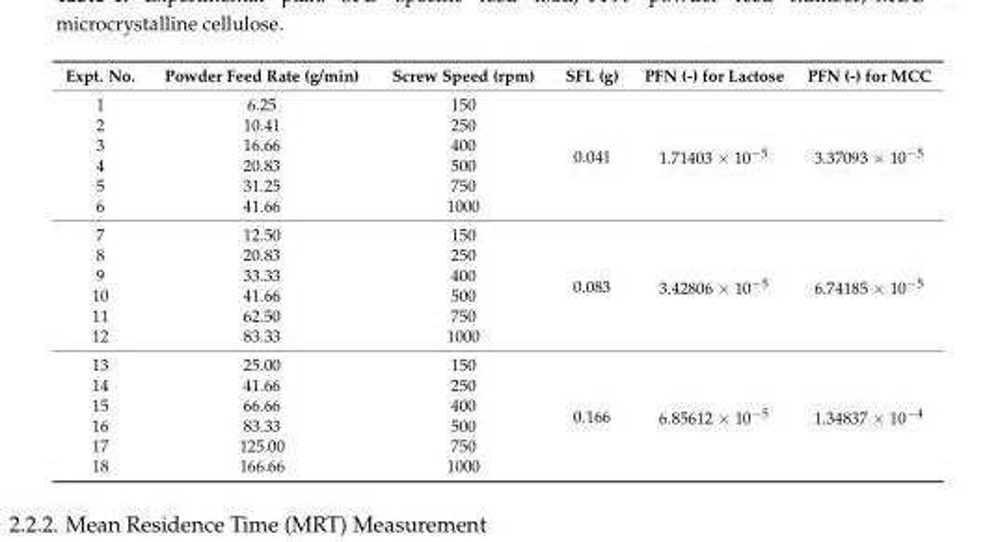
<table><thead><tr><td>Expt. No.</td><td>Powder Feed Rate (g/min)</td><td>Screw Speed (rpm)</td><td>SFL (g)</td><td>PFN (-) for Lactose</td><td>PFN (-) for MCC</td></tr></thead><tbody><tr><td>1</td><td>6.25</td><td>150</td><td rowspan="6">0.041</td><td rowspan="6">1.71403 × 10<sup>−5</sup></td><td rowspan="6">3.37093 × 10<sup>−5</sup></td></tr><tr><td>2</td><td>10.41</td><td>250</td></tr><tr><td>3</td><td>16.66</td><td>400</td></tr><tr><td>4</td><td>20.83</td><td>500</td></tr><tr><td>5</td><td>31.25</td><td>750</td></tr><tr><td>6</td><td>41.66</td><td>1000</td></tr><tr><td>7</td><td>12.50</td><td>150</td><td rowspan="6">0.083</td><td rowspan="6">3.42806 × 10<sup>−5</sup></td><td rowspan="6">6.74185 × 10<sup>−5</sup></td></tr><tr><td>8</td><td>20.83</td><td>250</td></tr><tr><td>9</td><td>33.33</td><td>400</td></tr><tr><td>10</td><td>41.66</td><td>500</td></tr><tr><td>11</td><td>62.50</td><td>750</td></tr><tr><td>12</td><td>83.33</td><td>1000</td></tr><tr><td>13</td><td>25.00</td><td>150</td><td rowspan="6">0.166</td><td rowspan="6">6.85612 × 10<sup>−5</sup></td><td rowspan="6">1.34837 × 10<sup>−4</sup></td></tr><tr><td>14</td><td>41.66</td><td>250</td></tr><tr><td>15</td><td>66.66</td><td>400</td></tr><tr><td>16</td><td>83.33</td><td>500</td></tr><tr><td>17</td><td>125.00</td><td>750</td></tr><tr><td>18</td><td>166.66</td><td>1000</td></tr></tbody></table>